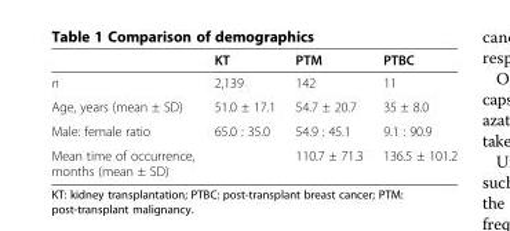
<table><thead><tr><td></td><td>KT</td><td>PTM</td><td>PTBC</td></tr></thead><tbody><tr><td>n</td><td>2,139</td><td>142</td><td>11</td></tr><tr><td>Age, years (mean ± SD)</td><td>51.0 ± 17.1</td><td>54.7 ± 20.7</td><td>35 ± 8.0</td></tr><tr><td>Male: female ratio</td><td>65.0 : 35.0</td><td>54.9 : 45.1</td><td>9.1 : 90.9</td></tr><tr><td>Mean time of occurrence, months (mean ± SD)</td><td></td><td>110.7 ± 71.3</td><td>136.5 ± 101.2</td></tr></tbody></table>